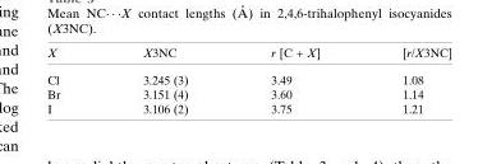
<table><thead><tr><td>X</td><td>X3NC</td><td>r [C + X]</td><td>[r/X3NC]</td></tr></thead><tbody><tr><td>Cl</td><td>3.245 (3)</td><td>3.49</td><td>1.08</td></tr><tr><td>Br</td><td>3.151 (4)</td><td>3.60</td><td>1.14</td></tr><tr><td>I</td><td>3.106 (2)</td><td>3.75</td><td>1.21</td></tr></tbody></table>